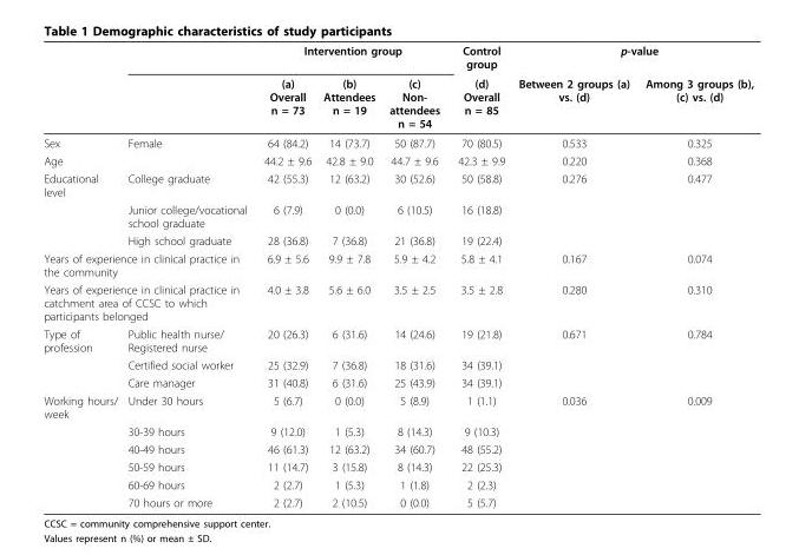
<table><thead><tr><td rowspan="2"></td><td rowspan="2"></td><td colspan="3">Intervention group</td><td rowspan="2">Control group (d) Overall n = 85</td><td colspan="2">p-value</td></tr><tr><td>(a) Overall n = 73</td><td>(b) Attendees n = 19</td><td>(c) Non- attendees n = 54</td><td>Between 2 groups (a) vs. (d)</td><td>Among 3 groups (b), (c) vs. (d)</td></tr></thead><tbody><tr><td>Sex</td><td>Female</td><td>64 (84.2)</td><td>14 (73.7)</td><td>50 (87.7)</td><td>70 (80.5)</td><td>0.533</td><td>0.325</td></tr><tr><td>Age</td><td></td><td>44.2 ± 9.6</td><td>42.8 ± 9.0</td><td>44.7 ± 9.6</td><td>42.3 ± 9.9</td><td>0.220</td><td>0.368</td></tr><tr><td rowspan="3">Educational level</td><td>College graduate</td><td>42 (55.3)</td><td>12 (63.2)</td><td>30 (52.6)</td><td>50 (58.8)</td><td>0.276</td><td>0.477</td></tr><tr><td>Junior college/vocational school graduate</td><td>6 (7.9)</td><td>0 (0.0)</td><td>6 (10.5)</td><td>16 (18.8)</td><td></td><td></td></tr><tr><td>High school graduate</td><td>28 (36.8)</td><td>7 (36.8)</td><td>21 (36.8)</td><td>19 (22.4)</td><td></td><td></td></tr><tr><td colspan="2">Years of experience in clinical practice in the community</td><td>6.9 ± 5.6</td><td>9.9 ± 7.8</td><td>5.9 ± 4.2</td><td>5.8 ± 4.1</td><td>0.167</td><td>0.074</td></tr><tr><td colspan="2">Years of experience in clinical practice in catchment area of CCSC to which participants belonged</td><td>4.0 ± 3.8</td><td>5.6 ± 6.0</td><td>3.5 ± 2.5</td><td>3.5 ± 2.8</td><td>0.280</td><td>0.310</td></tr><tr><td rowspan="3">Type of profession</td><td>Public health nurse/ Registered nurse</td><td>20 (26.3)</td><td>6 (31.6)</td><td>14 (24.6)</td><td>19 (21.8)</td><td>0.671</td><td>0.784</td></tr><tr><td>Certified social worker</td><td>25 (32.9)</td><td>7 (36.8)</td><td>18 (31.6)</td><td>34 (39.1)</td><td></td><td></td></tr><tr><td>Care manager</td><td>31 (40.8)</td><td>6 (31.6)</td><td>25 (43.9)</td><td>34 (39.1)</td><td></td><td></td></tr><tr><td rowspan="6">Working hours/ week</td><td>Under 30 hours</td><td>5 (6.7)</td><td>0 (0.0)</td><td>5 (8.9)</td><td>1 (1.1)</td><td>0.036</td><td>0.009</td></tr><tr><td>30-39 hours</td><td>9 (12.0)</td><td>1 (5.3)</td><td>8 (14.3)</td><td>9 (10.3)</td><td></td><td></td></tr><tr><td>40-49 hours</td><td>46 (61.3)</td><td>12 (63.2)</td><td>34 (60.7)</td><td>48 (55.2)</td><td></td><td></td></tr><tr><td>50-59 hours</td><td>11 (14.7)</td><td>3 (15.8)</td><td>8 (14.3)</td><td>22 (25.3)</td><td></td><td></td></tr><tr><td>60-69 hours</td><td>2 (2.7)</td><td>1 (5.3)</td><td>1 (1.8)</td><td>2 (2.3)</td><td></td><td></td></tr><tr><td>70 hours or more</td><td>2 (2.7)</td><td>2 (10.5)</td><td>0 (0.0)</td><td>5 (5.7)</td><td></td><td></td></tr></tbody></table>